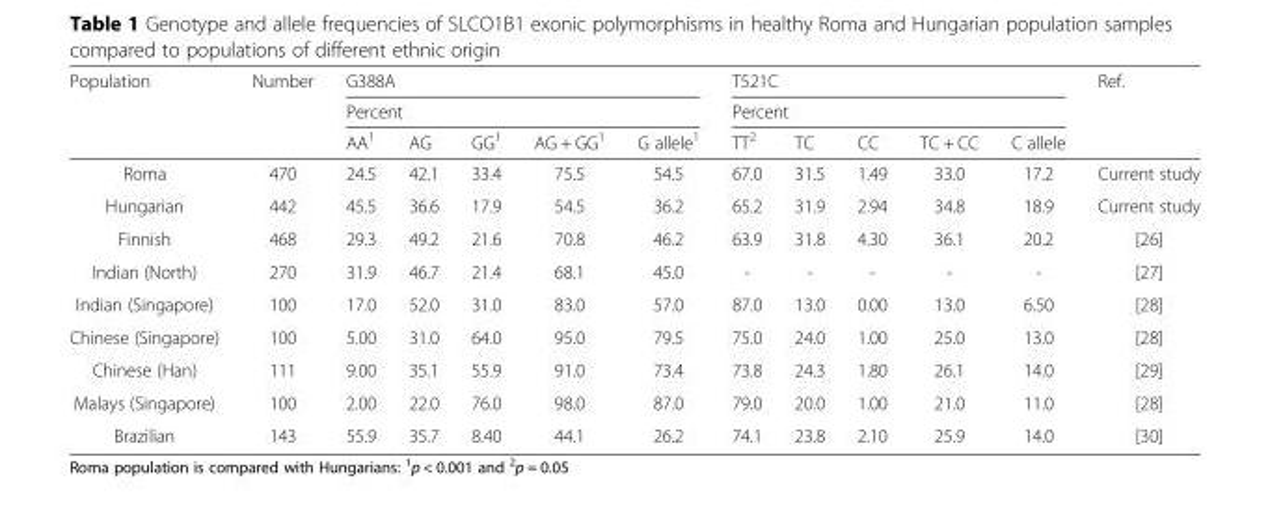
<table><thead><tr><td rowspan="3">Population</td><td rowspan="3">Number</td><td rowspan="2" colspan="5">G388A Percent</td><td rowspan="2" colspan="5">T521C Percent</td><td rowspan="3">Ref.</td></tr><tr></tr><tr><td>AA<sup>1</sup></td><td>AG</td><td>GG<sup>1</sup></td><td>AG + GG<sup>1</sup></td><td>G allele<sup>1</sup></td><td>TT<sup>2</sup></td><td>TC</td><td>CC</td><td>TC + CC</td><td>C allele</td></tr></thead><tbody><tr><td>Roma</td><td>470</td><td>24.5</td><td>42.1</td><td>33.4</td><td>75.5</td><td>54.5</td><td>67.0</td><td>31.5</td><td>1.49</td><td>33.0</td><td>17.2</td><td>Current study</td></tr><tr><td>Hungarian</td><td>442</td><td>45.5</td><td>36.6</td><td>17.9</td><td>54.5</td><td>36.2</td><td>65.2</td><td>31.9</td><td>2.94</td><td>34.8</td><td>18.9</td><td>Current study</td></tr><tr><td>Finnish</td><td>468</td><td>29.3</td><td>49.2</td><td>21.6</td><td>70.8</td><td>46.2</td><td>63.9</td><td>31.8</td><td>4.30</td><td>36.1</td><td>20.2</td><td>[26]</td></tr><tr><td>Indian (North)</td><td>270</td><td>31.9</td><td>46.7</td><td>21.4</td><td>68.1</td><td>45.0</td><td>-</td><td>-</td><td>-</td><td>-</td><td>-</td><td>[27]</td></tr><tr><td>Indian (Singapore)</td><td>100</td><td>17.0</td><td>52.0</td><td>31.0</td><td>83.0</td><td>57.0</td><td>87.0</td><td>13.0</td><td>0.00</td><td>13.0</td><td>6.50</td><td>[28]</td></tr><tr><td>Chinese (Singapore)</td><td>100</td><td>5.00</td><td>31.0</td><td>64.0</td><td>95.0</td><td>79.5</td><td>75.0</td><td>24.0</td><td>1.00</td><td>25.0</td><td>13.0</td><td>[28]</td></tr><tr><td>Chinese (Han)</td><td>111</td><td>9.00</td><td>35.1</td><td>55.9</td><td>91.0</td><td>73.4</td><td>73.8</td><td>24.3</td><td>1.80</td><td>26.1</td><td>14.0</td><td>[29]</td></tr><tr><td>Malays (Singapore)</td><td>100</td><td>2.00</td><td>22.0</td><td>76.0</td><td>98.0</td><td>87.0</td><td>79.0</td><td>20.0</td><td>1.00</td><td>21.0</td><td>11.0</td><td>[28]</td></tr><tr><td>Brazilian</td><td>143</td><td>55.9</td><td>35.7</td><td>8.40</td><td>44.1</td><td>26.2</td><td>74.1</td><td>23.8</td><td>2.10</td><td>25.9</td><td>14.0</td><td>[30]</td></tr></tbody></table>